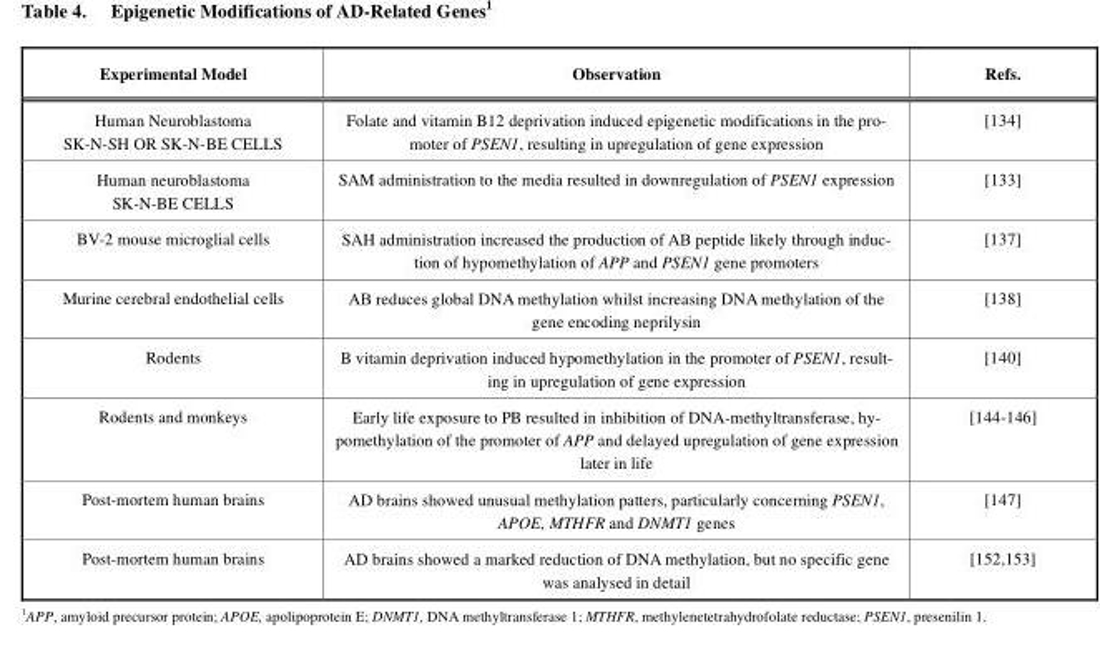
<table><thead><tr><td>Experimental Model</td><td>Observation</td><td>Refs.</td></tr></thead><tbody><tr><td>Human Neuroblastoma SK-N-SH OR SK-N-BE CELLS</td><td>Folate and vitamin B12 deprivation induced epigenetic modifications in the pro- moter of PSEN1, resulting in upregulation of gene expression</td><td>[134]</td></tr><tr><td>Human neuroblastoma SK-N-BE CELLS</td><td>SAM administration to the media resulted in downregulation of PSEN1 expression</td><td>[133]</td></tr><tr><td>BV-2 mouse microglial cells</td><td>SAH administration increased the production of A� peptide likely through induc- tion of hypomethylation of APP and PSEN1 gene promoters</td><td>[137]</td></tr><tr><td>Murine cerebral endothelial cells</td><td>AB reduces global DNA methylation whilst increasing DNA methylation of the gene encoding neprilysin</td><td>[138]</td></tr><tr><td>Rodents</td><td>B vitamin deprivation induced hypomethylation in the promoter of PSEN1, result- ing in upregulation of gene expression</td><td>[140]</td></tr><tr><td>Rodents and monkeys</td><td>Early life exposure to PB resulted in inhibition of DNA-methyltransferase, hy- pomethylation of the promoter of APP and delayed upregulation of gene expression later in life</td><td>[144-146]</td></tr><tr><td>Post-mortem human brains</td><td>AD brains showed unusual methylation patters, particularly concerning PSEN1, APOE, MTHFR and DNMT1 genes</td><td>[147]</td></tr><tr><td>Post-mortem human brains</td><td>AD brains showed a marked reduction of DNA methylation, but no specific gene was analysed in detail</td><td>[152,153]</td></tr></tbody></table>